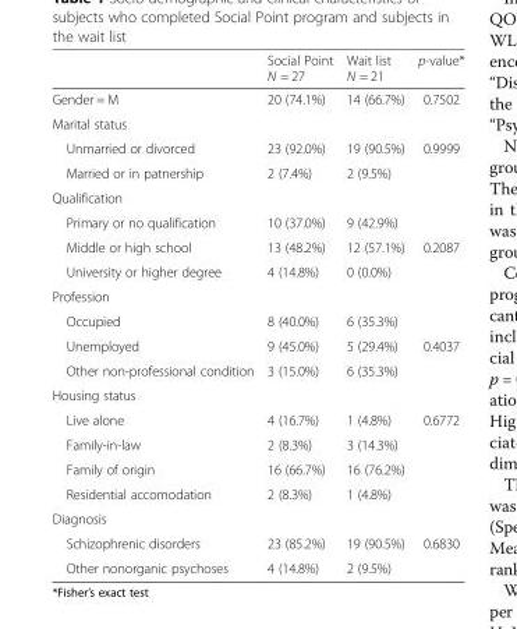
<table><thead><tr><td></td><td>Social Point N = 27</td><td>Wait list N = 21</td><td>p-value*</td></tr></thead><tbody><tr><td>Gender = M</td><td>20 (74.1%)</td><td>14 (66.7%)</td><td>0.7502</td></tr><tr><td colspan="4">Marital status</td></tr><tr><td>Unmarried or divorced</td><td>23 (92.0%)</td><td>19 (90.5%)</td><td>0.9999</td></tr><tr><td>Married or in patnership</td><td>2 (7.4%)</td><td>2 (9.5%)</td><td></td></tr><tr><td colspan="4">Qualification</td></tr><tr><td>Primary or no qualification</td><td>10 (37.0%)</td><td>9 (42.9%)</td><td></td></tr><tr><td>Middle or high school</td><td>13 (48.2%)</td><td>12 (57.1%)</td><td>0.2087</td></tr><tr><td>University or higher degree</td><td>4 (14.8%)</td><td>0 (0.0%)</td><td></td></tr><tr><td colspan="4">Profession</td></tr><tr><td>Occupied</td><td>8 (40.0%)</td><td>6 (35.3%)</td><td></td></tr><tr><td>Unemployed</td><td>9 (45.0%)</td><td>5 (29.4%)</td><td>0.4037</td></tr><tr><td>Other non-professional condition</td><td>3 (15.0%)</td><td>6 (35.3%)</td><td></td></tr><tr><td colspan="4">Housing status</td></tr><tr><td>Live alone</td><td>4 (16.7%)</td><td>1 (4.8%)</td><td>0.6772</td></tr><tr><td>Family-in-law</td><td>2 (8.3%)</td><td>3 (14.3%)</td><td></td></tr><tr><td>Family of origin</td><td>16 (66.7%)</td><td>16 (76.2%)</td><td></td></tr><tr><td>Residential accomodation</td><td>2 (8.3%)</td><td>1 (4.8%)</td><td></td></tr><tr><td colspan="4">Diagnosis</td></tr><tr><td>Schizophrenic disorders</td><td>23 (85.2%)</td><td>19 (90.5%)</td><td>0.6830</td></tr><tr><td>Other nonorganic psychoses</td><td>4 (14.8%)</td><td>2 (9.5%)</td><td></td></tr></tbody></table>